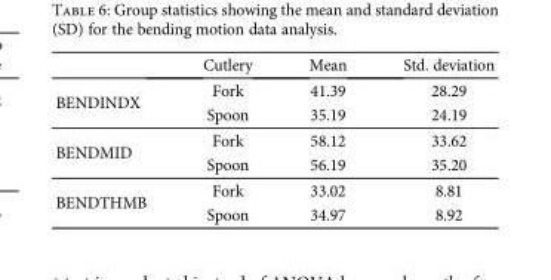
<table><thead><tr><td></td><td>Cutlery</td><td>Mean</td><td>Std. deviation</td></tr></thead><tbody><tr><td rowspan="2">BENDINDX</td><td>Fork</td><td>41.39</td><td>28.29</td></tr><tr><td>Spoon</td><td>35.19</td><td>24.19</td></tr><tr><td rowspan="2">BENDMID</td><td>Fork</td><td>58.12</td><td>33.62</td></tr><tr><td>Spoon</td><td>56.19</td><td>35.20</td></tr><tr><td rowspan="2">BENDTHMB</td><td>Fork</td><td>33.02</td><td>8.81</td></tr><tr><td>Spoon</td><td>34.97</td><td>8.92</td></tr></tbody></table>